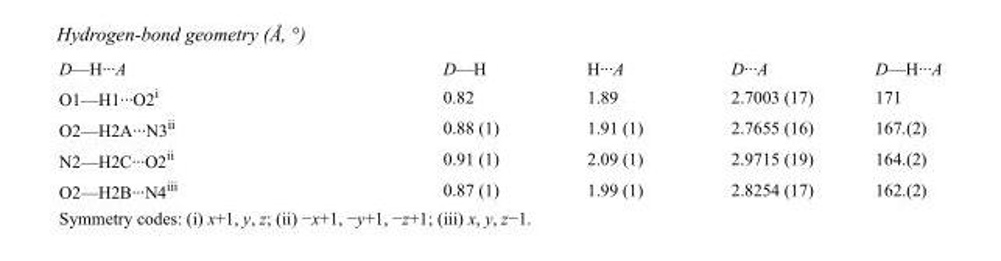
<table><tbody><tr><td>D—H···A</td><td>D—H</td><td>H···A</td><td>D···A</td><td>D—H···A</td></tr><tr><td>O1—H1···O2<sup>i</sup></td><td>0.82</td><td>1.89</td><td>2.7003 (17)</td><td>171</td></tr><tr><td>O2—H2A···N3<sup>ii</sup></td><td>0.88 (1)</td><td>1.91 (1)</td><td>2.7655 (16)</td><td>167.(2)</td></tr><tr><td>N2—H2C···O2<sup>ii</sup></td><td>0.91 (1)</td><td>2.09 (1)</td><td>2.9715 (19)</td><td>164.(2)</td></tr><tr><td>O2—H2B···N4<sup>iii</sup></td><td>0.87 (1)</td><td>1.99 (1)</td><td>2.8254 (17)</td><td>162.(2)</td></tr></tbody></table>